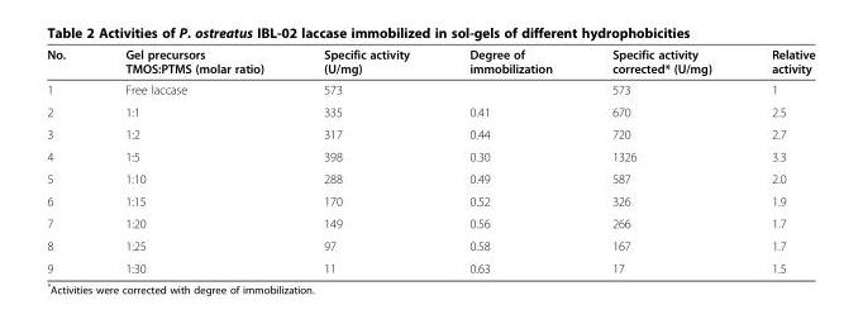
<table><thead><tr><td>No.</td><td>Gel precursors TMOS:PTMS (molar ratio)</td><td>Specific activity (U/mg)</td><td>Degree of immobilization</td><td>Specific activity corrected* (U/mg)</td><td>Relative activity</td></tr></thead><tbody><tr><td>1</td><td>Free laccase</td><td>573</td><td></td><td>573</td><td>1</td></tr><tr><td>2</td><td>1:1</td><td>335</td><td>0.41</td><td>670</td><td>2.5</td></tr><tr><td>3</td><td>1:2</td><td>317</td><td>0.44</td><td>720</td><td>2.7</td></tr><tr><td>4</td><td>1:5</td><td>398</td><td>0.30</td><td>1326</td><td>3.3</td></tr><tr><td>5</td><td>1:10</td><td>288</td><td>0.49</td><td>587</td><td>2.0</td></tr><tr><td>6</td><td>1:15</td><td>170</td><td>0.52</td><td>326</td><td>1.9</td></tr><tr><td>7</td><td>1:20</td><td>149</td><td>0.56</td><td>266</td><td>1.7</td></tr><tr><td>8</td><td>1:25</td><td>97</td><td>0.58</td><td>167</td><td>1.7</td></tr><tr><td>9</td><td>1:30</td><td>11</td><td>0.63</td><td>17</td><td>1.5</td></tr></tbody></table>